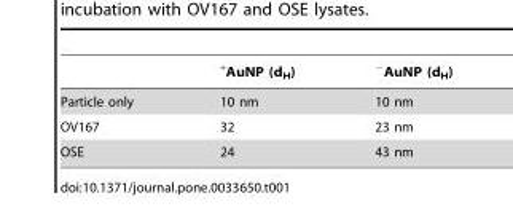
<table><thead><tr><td></td><td><sup>+</sup>AuNP (d<sub>H</sub>)</td><td><sup>−</sup>AuNP (d<sub>H</sub>)</td></tr></thead><tbody><tr><td>Particle only</td><td>10 nm</td><td>10 nm</td></tr><tr><td>OV167</td><td>32</td><td>23 nm</td></tr><tr><td>OSE</td><td>24</td><td>43 nm</td></tr></tbody></table>